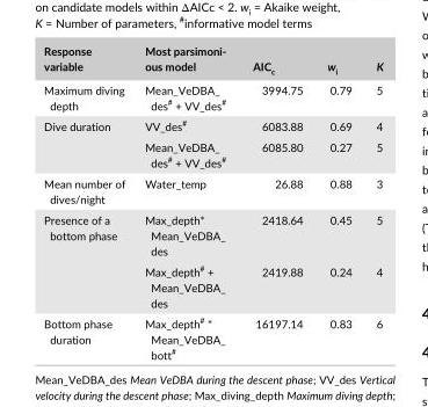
<table><thead><tr><td>Response variable</td><td>Most parsimoni- ous model</td><td>AIC<sub>c</sub></td><td>w<sub>i</sub></td><td>K</td></tr></thead><tbody><tr><td>Maximum diving depth</td><td>Mean_VeDBA_ des<sup>#</sup> + VV_des<sup>#</sup></td><td>3994.75</td><td>0.79</td><td>5</td></tr><tr><td rowspan="2">Dive duration</td><td>VV_des<sup>#</sup></td><td>6083.88</td><td>0.69</td><td>4</td></tr><tr><td>Mean_VeDBA_ des<sup>#</sup> + VV_des<sup>#</sup></td><td>6085.80</td><td>0.27</td><td>5</td></tr><tr><td>Mean number of dives/night</td><td>Water_temp</td><td>26.88</td><td>0.88</td><td>3</td></tr><tr><td rowspan="2">Presence of a bottom phase</td><td>Max_depth* Mean_VeDBA_ des</td><td>2418.64</td><td>0.45</td><td>5</td></tr><tr><td>Max_depth<sup>#</sup> + Mean_VeDBA_ des</td><td>2419.88</td><td>0.24</td><td>4</td></tr><tr><td>Bottom phase duration</td><td>Max_depth<sup>#</sup> * Mean_VeDBA_ bott<sup>#</sup></td><td>16197.14</td><td>0.83</td><td>6</td></tr></tbody></table>